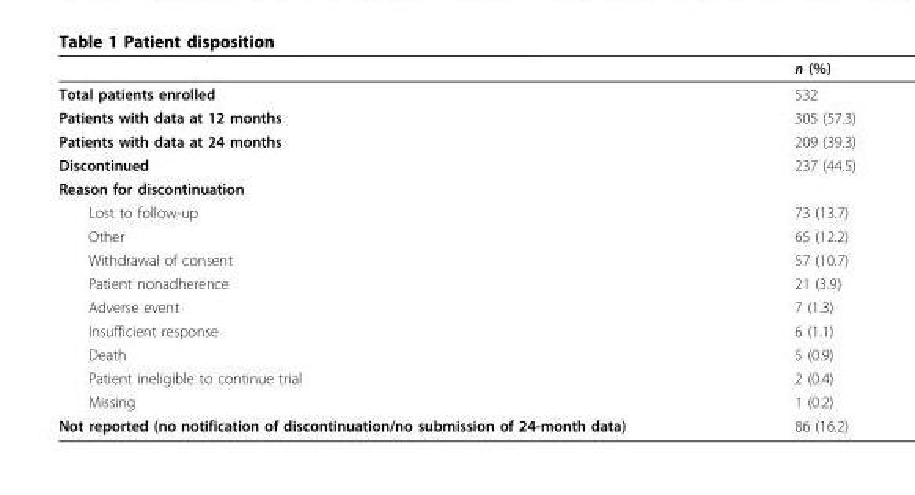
<table><thead><tr><td></td><td>n (%)</td></tr></thead><tbody><tr><td>Total patients enrolled</td><td>532</td></tr><tr><td>Patients with data at 12 months</td><td>305 (57.3)</td></tr><tr><td>Patients with data at 24 months</td><td>209 (39.3)</td></tr><tr><td>Discontinued</td><td>237 (44.5)</td></tr><tr><td colspan="2">Reason for discontinuation</td></tr><tr><td>Lost to follow-up</td><td>73 (13.7)</td></tr><tr><td>Other</td><td>65 (12.2)</td></tr><tr><td>Withdrawal of consent</td><td>57 (10.7)</td></tr><tr><td>Patient nonadherence</td><td>21 (3.9)</td></tr><tr><td>Adverse event</td><td>7 (1.3)</td></tr><tr><td>Insufficient response</td><td>6 (1.1)</td></tr><tr><td>Death</td><td>5 (0.9)</td></tr><tr><td>Patient ineligible to continue trial</td><td>2 (0.4)</td></tr><tr><td>Missing</td><td>1 (0.2)</td></tr><tr><td>Not reported (no notification of discontinuation/no submission of 24-month data)</td><td>86 (16.2)</td></tr></tbody></table>